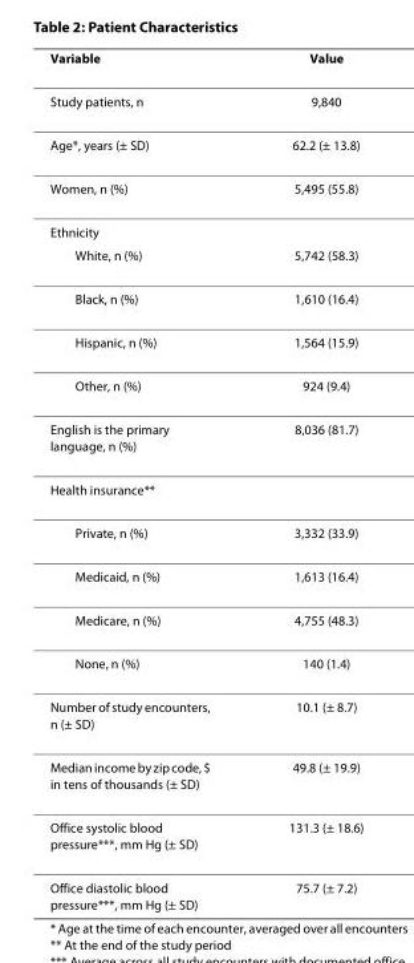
<table><thead><tr><td>Variable</td><td>Value</td></tr></thead><tbody><tr><td>Study patients, n</td><td>9,840</td></tr><tr><td>Age*, years (± SD)</td><td>62.2 (± 13.8)</td></tr><tr><td>Women, n (%)</td><td>5,495 (55.8)</td></tr><tr><td colspan="2">Ethnicity</td></tr><tr><td>White, n (%)</td><td>5,742 (58.3)</td></tr><tr><td>Black, n (%)</td><td>1,610 (16.4)</td></tr><tr><td>Hispanic, n (%)</td><td>1,564 (15.9)</td></tr><tr><td>Other, n (%)</td><td>924 (9.4)</td></tr><tr><td>English is the primary language, n (%)</td><td>8,036 (81.7)</td></tr><tr><td colspan="2">Health insurance**</td></tr><tr><td>Private, n (%)</td><td>3,332 (33.9)</td></tr><tr><td>Medicaid, n (%)</td><td>1,613 (16.4)</td></tr><tr><td>Medicare, n (%)</td><td>4,755 (48.3)</td></tr><tr><td>None, n (%)</td><td>140 (1.4)</td></tr><tr><td>Number of study encounters, n (± SD)</td><td>10.1 (± 8.7)</td></tr><tr><td>Median income by zip code, $ in tens of thousands (± SD)</td><td>49.8 (± 19.9)</td></tr><tr><td>Office systolic blood pressure***, mm Hg (± SD)</td><td>131.3 (± 18.6)</td></tr><tr><td>Office diastolic blood pressure***, mm Hg (± SD)</td><td>75.7 (± 7.2)</td></tr></tbody></table>